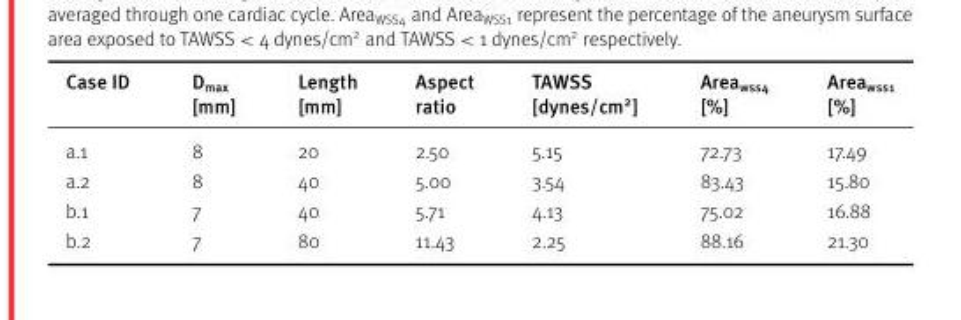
<table><thead><tr><td>Case ID</td><td>D<sub>max</sub> [mm]</td><td>Length [mm]</td><td>Aspect ratio</td><td>TAWSS [dynes/cm<sup>2</sup>]</td><td>Area<sub>wss4</sub> [%]</td><td>Area<sub>wss1</sub> [%]</td></tr></thead><tbody><tr><td>a.1</td><td>8</td><td>20</td><td>2.50</td><td>5.15</td><td>72.73</td><td>17.49</td></tr><tr><td>a.2</td><td>8</td><td>40</td><td>5.00</td><td>3.54</td><td>83.43</td><td>15.80</td></tr><tr><td>b.1</td><td>7</td><td>40</td><td>5.71</td><td>4.13</td><td>75.02</td><td>16.88</td></tr><tr><td>b.2</td><td>7</td><td>80</td><td>11.43</td><td>2.25</td><td>88.16</td><td>21.30</td></tr></tbody></table>